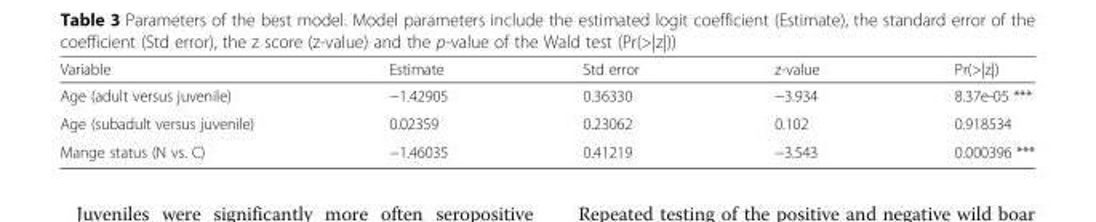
<table><thead><tr><td>Variable</td><td>Estimate</td><td>Std error</td><td>z-value</td><td>Pr(&gt;|z|)</td></tr></thead><tbody><tr><td>Age (adult versus juvenile)</td><td>−1.42905</td><td>0.36330</td><td>−3.934</td><td>8.37e-05 ***</td></tr><tr><td>Age (subadult versus juvenile)</td><td>0.02359</td><td>0.23062</td><td>0.102</td><td>0.918534</td></tr><tr><td>Mange status (N vs. C)</td><td>−1.46035</td><td>0.41219</td><td>−3.543</td><td>0.000396 ***</td></tr></tbody></table>